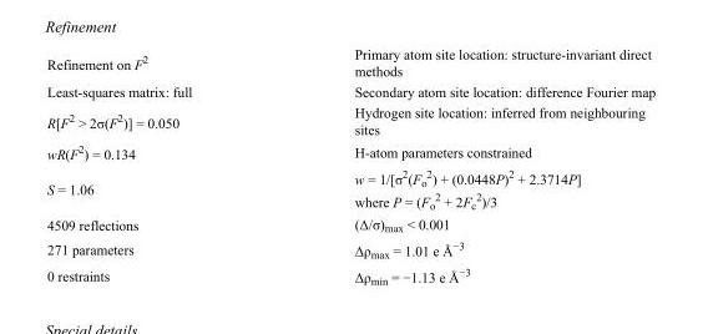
<table><tbody><tr><td>Refinement on F<sup>2</sup></td><td>Primary atom site location: structure-invariant direct methods</td></tr><tr><td>Least-squares matrix: full</td><td>Secondary atom site location: difference Fourier map</td></tr><tr><td>R[F<sup>2</sup> &gt; 2σ(F<sup>2</sup>)] = 0.050</td><td>Hydrogen site location: inferred from neighbouring sites</td></tr><tr><td>wR(F<sup>2</sup>) = 0.134</td><td>H-atom parameters constrained</td></tr><tr><td>S = 1.06</td><td>w = 1/[σ<sup>2</sup>(F<sub>o</sub> <sup>2</sup>) + (0.0448P)<sup>2</sup> + 2.3714P] where P = (F<sub>o</sub> <sup>2</sup> + 2F<sub>c</sub> <sup>2</sup>)/3</td></tr><tr><td>4509 reflections</td><td>(Δ/σ)<sub>max</sub> &lt; 0.001</td></tr><tr><td>271 parameters</td><td>Δρ<sub>max</sub> = 1.01 e Å<sup>−3</sup></td></tr><tr><td>0 restraints</td><td>Δρ<sub>min</sub> = −1.13 e Å<sup>−3</sup></td></tr></tbody></table>